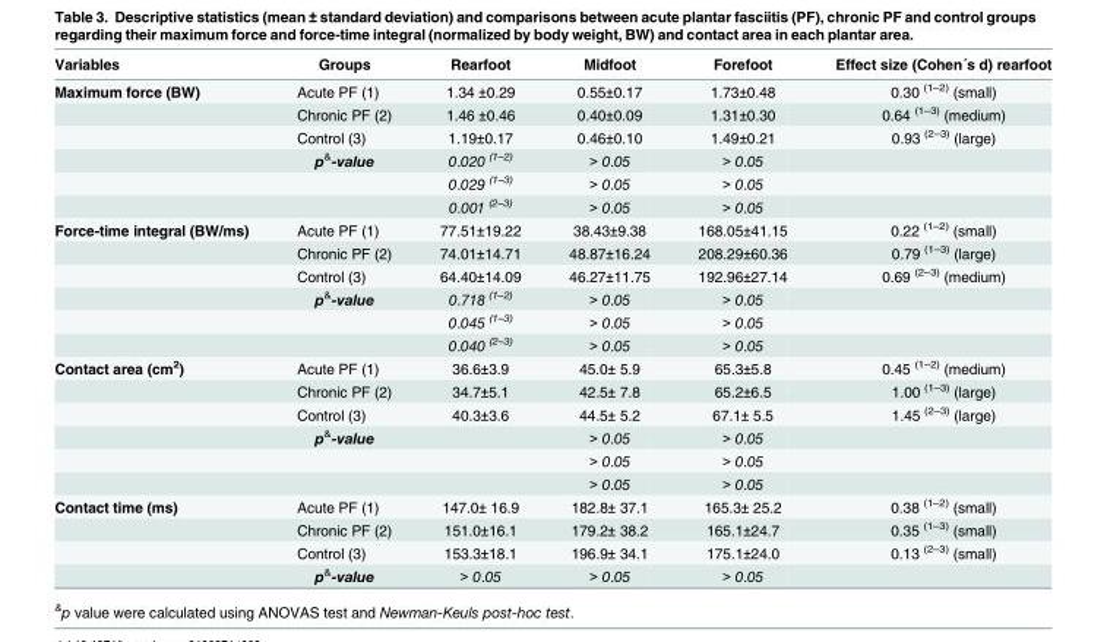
<table><thead><tr><td>Variables</td><td>Groups</td><td>Rearfoot</td><td>Midfoot</td><td>Forefoot</td><td>Effect size (Cohen´s d) rearfoot</td></tr></thead><tbody><tr><td rowspan="6">Maximum force (BW)</td><td>Acute PF (1)</td><td>1.34 ±0.29</td><td>0.55±0.17</td><td>1.73±0.48</td><td>0.30 <sup>(1–2)</sup> (small)</td></tr><tr><td>Chronic PF (2)</td><td>1.46 ±0.46</td><td>0.40±0.09</td><td>1.31±0.30</td><td>0.64 <sup>(1–3)</sup> (medium)</td></tr><tr><td>Control (3)</td><td>1.19±0.17</td><td>0.46±0.10</td><td>1.49±0.21</td><td>0.93 <sup>(2–3)</sup> (large)</td></tr><tr><td>p<sup>&amp;</sup>-value</td><td>0.020 <sup>(1–2)</sup></td><td>&gt; 0.05</td><td>&gt; 0.05</td><td></td></tr><tr><td></td><td>0.029 <sup>(1–3)</sup></td><td>&gt; 0.05</td><td>&gt; 0.05</td><td></td></tr><tr><td></td><td>0.001 <sup>(2–3)</sup></td><td>&gt; 0.05</td><td>&gt; 0.05</td><td></td></tr><tr><td rowspan="6">Force-time integral (BW/ms)</td><td>Acute PF (1)</td><td>77.51±19.22</td><td>38.43±9.38</td><td>168.05±41.15</td><td>0.22 <sup>(1–2)</sup> (small)</td></tr><tr><td>Chronic PF (2)</td><td>74.01±14.71</td><td>48.87±16.24</td><td>208.29±60.36</td><td>0.79 <sup>(1–3)</sup> (large)</td></tr><tr><td>Control (3)</td><td>64.40±14.09</td><td>46.27±11.75</td><td>192.96±27.14</td><td>0.69 <sup>(2–3)</sup> (medium)</td></tr><tr><td>p<sup>&amp;</sup>-value</td><td>0.718 <sup>(1–2)</sup></td><td>&gt; 0.05</td><td>&gt; 0.05</td><td></td></tr><tr><td></td><td>0.045 <sup>(1–3)</sup></td><td>&gt; 0.05</td><td>&gt; 0.05</td><td></td></tr><tr><td></td><td>0.040 <sup>(2–3)</sup></td><td>&gt; 0.05</td><td>&gt; 0.05</td><td></td></tr><tr><td rowspan="6">Contact area (cm<sup>2</sup>)</td><td>Acute PF (1)</td><td>36.6±3.9</td><td>45.0± 5.9</td><td>65.3±5.8</td><td>0.45 <sup>(1–2)</sup> (medium)</td></tr><tr><td>Chronic PF (2)</td><td>34.7±5.1</td><td>42.5± 7.8</td><td>65.2±6.5</td><td>1.00 <sup>(1–3)</sup> (large)</td></tr><tr><td>Control (3)</td><td>40.3±3.6</td><td>44.5± 5.2</td><td>67.1± 5.5</td><td>1.45 <sup>(2–3)</sup> (large)</td></tr><tr><td>p<sup>&amp;</sup>-value</td><td></td><td>&gt; 0.05</td><td>&gt; 0.05</td><td></td></tr><tr><td></td><td></td><td>&gt; 0.05</td><td>&gt; 0.05</td><td></td></tr><tr><td></td><td></td><td>&gt; 0.05</td><td>&gt; 0.05</td><td></td></tr><tr><td rowspan="4">Contact time (ms)</td><td>Acute PF (1)</td><td>147.0± 16.9</td><td>182.8± 37.1</td><td>165.3± 25.2</td><td>0.38 <sup>(1–2)</sup> (small)</td></tr><tr><td>Chronic PF (2)</td><td>151.0±16.1</td><td>179.2± 38.2</td><td>165.1±24.7</td><td>0.35 <sup>(1–3)</sup> (small)</td></tr><tr><td>Control (3)</td><td>153.3±18.1</td><td>196.9± 34.1</td><td>175.1±24.0</td><td>0.13 <sup>(2–3)</sup> (small)</td></tr><tr><td>p<sup>&amp;</sup>-value</td><td>&gt; 0.05</td><td>&gt; 0.05</td><td>&gt; 0.05</td><td></td></tr></tbody></table>